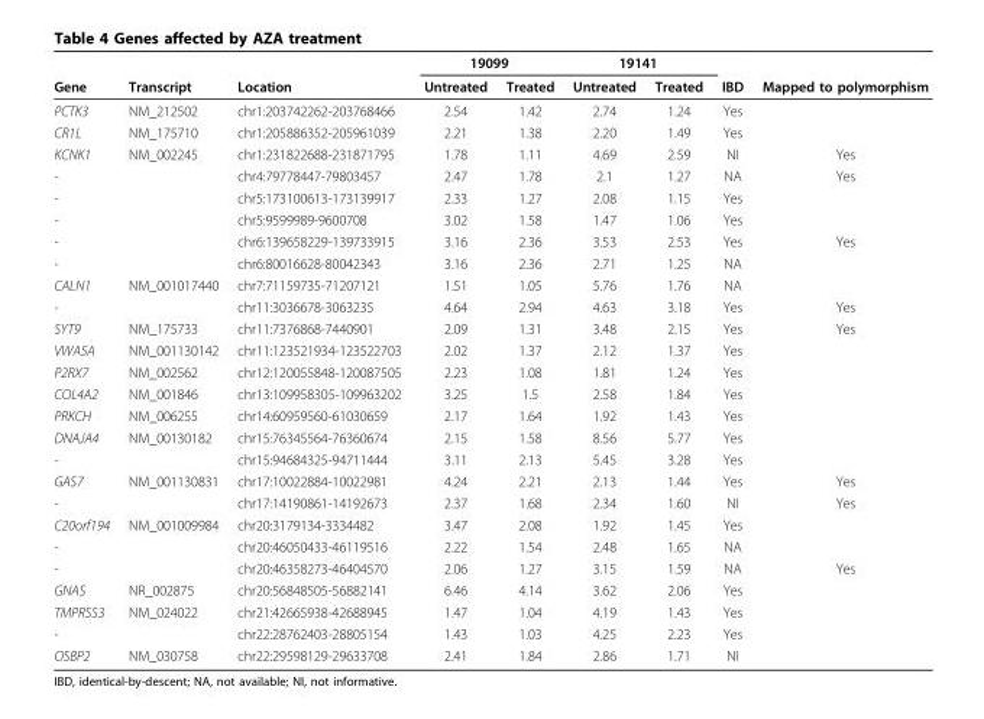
<table><thead><tr><td rowspan="2">Gene</td><td rowspan="2">Transcript</td><td rowspan="2">Location</td><td colspan="2">19099</td><td colspan="2">19141</td><td rowspan="2">IBD</td><td rowspan="2">Mapped to polymorphism</td></tr><tr><td>Untreated</td><td>Treated</td><td>Untreated</td><td>Treated</td></tr></thead><tbody><tr><td>PCTK3</td><td>NM_212502</td><td>chr1:203742262-203768466</td><td>2.54</td><td>1.42</td><td>2.74</td><td>1.24</td><td>Yes</td><td></td></tr><tr><td>CR1L</td><td>NM_175710</td><td>chr1:205886352-205961039</td><td>2.21</td><td>1.38</td><td>2.20</td><td>1.49</td><td>Yes</td><td></td></tr><tr><td>KCNK1</td><td>NM_002245</td><td>chr1:231822688-231871795</td><td>1.78</td><td>1.11</td><td>4.69</td><td>2.59</td><td>NI</td><td>Yes</td></tr><tr><td>-</td><td></td><td>chr4:79778447-79803457</td><td>2.47</td><td>1.78</td><td>2.1</td><td>1.27</td><td>NA</td><td>Yes</td></tr><tr><td>-</td><td></td><td>chr5:173100613-173139917</td><td>2.33</td><td>1.27</td><td>2.08</td><td>1.15</td><td>Yes</td><td></td></tr><tr><td>-</td><td></td><td>chr5:9599989-9600708</td><td>3.02</td><td>1.58</td><td>1.47</td><td>1.06</td><td>Yes</td><td></td></tr><tr><td>-</td><td></td><td>chr6:139658229-139733915</td><td>3.16</td><td>2.36</td><td>3.53</td><td>2.53</td><td>Yes</td><td>Yes</td></tr><tr><td>-</td><td></td><td>chr6:80016628-80042343</td><td>3.16</td><td>2.36</td><td>2.71</td><td>1.25</td><td>NA</td><td></td></tr><tr><td>CALN1</td><td>NM_001017440</td><td>chr7:71159735-71207121</td><td>1.51</td><td>1.05</td><td>5.76</td><td>1.76</td><td>NA</td><td></td></tr><tr><td>-</td><td></td><td>chr11:3036678-3063235</td><td>4.64</td><td>2.94</td><td>4.63</td><td>3.18</td><td>Yes</td><td>Yes</td></tr><tr><td>SYT9</td><td>NM_175733</td><td>chr11:7376868-7440901</td><td>2.09</td><td>1.31</td><td>3.48</td><td>2.15</td><td>Yes</td><td>Yes</td></tr><tr><td>VWA5A</td><td>NM_001130142</td><td>chr11:123521934-123522703</td><td>2.02</td><td>1.37</td><td>2.12</td><td>1.37</td><td>Yes</td><td></td></tr><tr><td>P2RX7</td><td>NM_002562</td><td>chr12:120055848-120087505</td><td>2.23</td><td>1.08</td><td>1.81</td><td>1.24</td><td>Yes</td><td></td></tr><tr><td>COL4A2</td><td>NM_001846</td><td>chr13:109958305-109963202</td><td>3.25</td><td>1.5</td><td>2.58</td><td>1.84</td><td>Yes</td><td></td></tr><tr><td>PRKCH</td><td>NM_006255</td><td>chr14:60959560-61030659</td><td>2.17</td><td>1.64</td><td>1.92</td><td>1.43</td><td>Yes</td><td></td></tr><tr><td>DNAJA4</td><td>NM_00130182</td><td>chr15:76345564-76360674</td><td>2.15</td><td>1.58</td><td>8.56</td><td>5.77</td><td>Yes</td><td></td></tr><tr><td>-</td><td></td><td>chr15:94684325-94711444</td><td>3.11</td><td>2.13</td><td>5.45</td><td>3.28</td><td>Yes</td><td></td></tr><tr><td>GAS7</td><td>NM_001130831</td><td>chr17:10022884-10022981</td><td>4.24</td><td>2.21</td><td>2.13</td><td>1.44</td><td>Yes</td><td>Yes</td></tr><tr><td>-</td><td></td><td>chr17:14190861-14192673</td><td>2.37</td><td>1.68</td><td>2.34</td><td>1.60</td><td>NI</td><td>Yes</td></tr><tr><td>C20orf194</td><td>NM_001009984</td><td>chr20:3179134-3334482</td><td>3.47</td><td>2.08</td><td>1.92</td><td>1.45</td><td>Yes</td><td></td></tr><tr><td>-</td><td></td><td>chr20:46050433-46119516</td><td>2.22</td><td>1.54</td><td>2.48</td><td>1.65</td><td>NA</td><td></td></tr><tr><td>-</td><td></td><td>chr20:46358273-46404570</td><td>2.06</td><td>1.27</td><td>3.15</td><td>1.59</td><td>NA</td><td>Yes</td></tr><tr><td>GNAS</td><td>NR_002875</td><td>chr20:56848505-56882141</td><td>6.46</td><td>4.14</td><td>3.62</td><td>2.06</td><td>Yes</td><td></td></tr><tr><td>TMPRSS3</td><td>NM_024022</td><td>chr21:42665938-42688945</td><td>1.47</td><td>1.04</td><td>4.19</td><td>1.43</td><td>Yes</td><td></td></tr><tr><td>-</td><td></td><td>chr22:28762403-28805154</td><td>1.43</td><td>1.03</td><td>4.25</td><td>2.23</td><td>Yes</td><td></td></tr><tr><td>OSBP2</td><td>NM_030758</td><td>chr22:29598129-29633708</td><td>2.41</td><td>1.84</td><td>2.86</td><td>1.71</td><td>NI</td><td></td></tr></tbody></table>